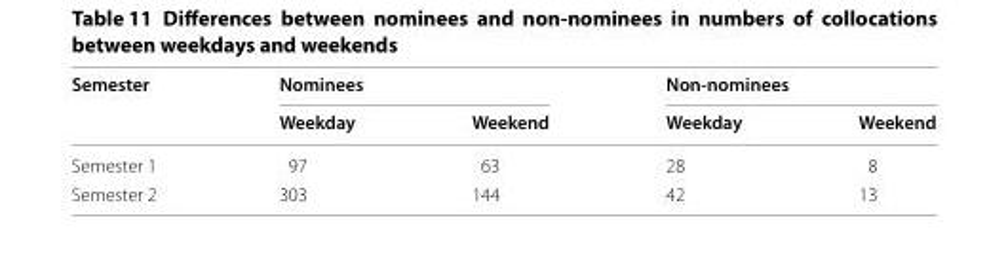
<table><thead><tr><td rowspan="2">Semester</td><td colspan="2">Nominees</td><td colspan="2">Non-nominees</td></tr><tr><td>Weekday</td><td>Weekend</td><td>Weekday</td><td>Weekend</td></tr></thead><tbody><tr><td>Semester 1</td><td>97</td><td>63</td><td>28</td><td>8</td></tr><tr><td>Semester 2</td><td>303</td><td>144</td><td>42</td><td>13</td></tr></tbody></table>